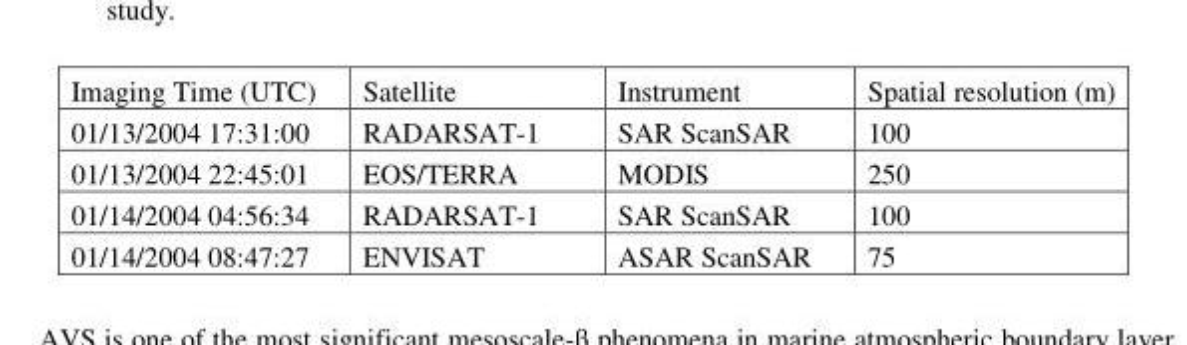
<table><thead><tr><td>Imaging Time (UTC)</td><td>Satellite</td><td>Instrument</td><td>Spatial resolution (m)</td></tr></thead><tbody><tr><td>01/13/2004 17:31:00</td><td>RADARSAT-1</td><td>SAR ScanSAR</td><td>100</td></tr><tr><td>01/13/2004 22:45:01</td><td>EOS/TERRA</td><td>MODIS</td><td>250</td></tr><tr><td>01/14/2004 04:56:34</td><td>RADARSAT-1</td><td>SAR ScanSAR</td><td>100</td></tr><tr><td>01/14/2004 08:47:27</td><td>ENVISAT</td><td>ASAR ScanSAR</td><td>75</td></tr></tbody></table>